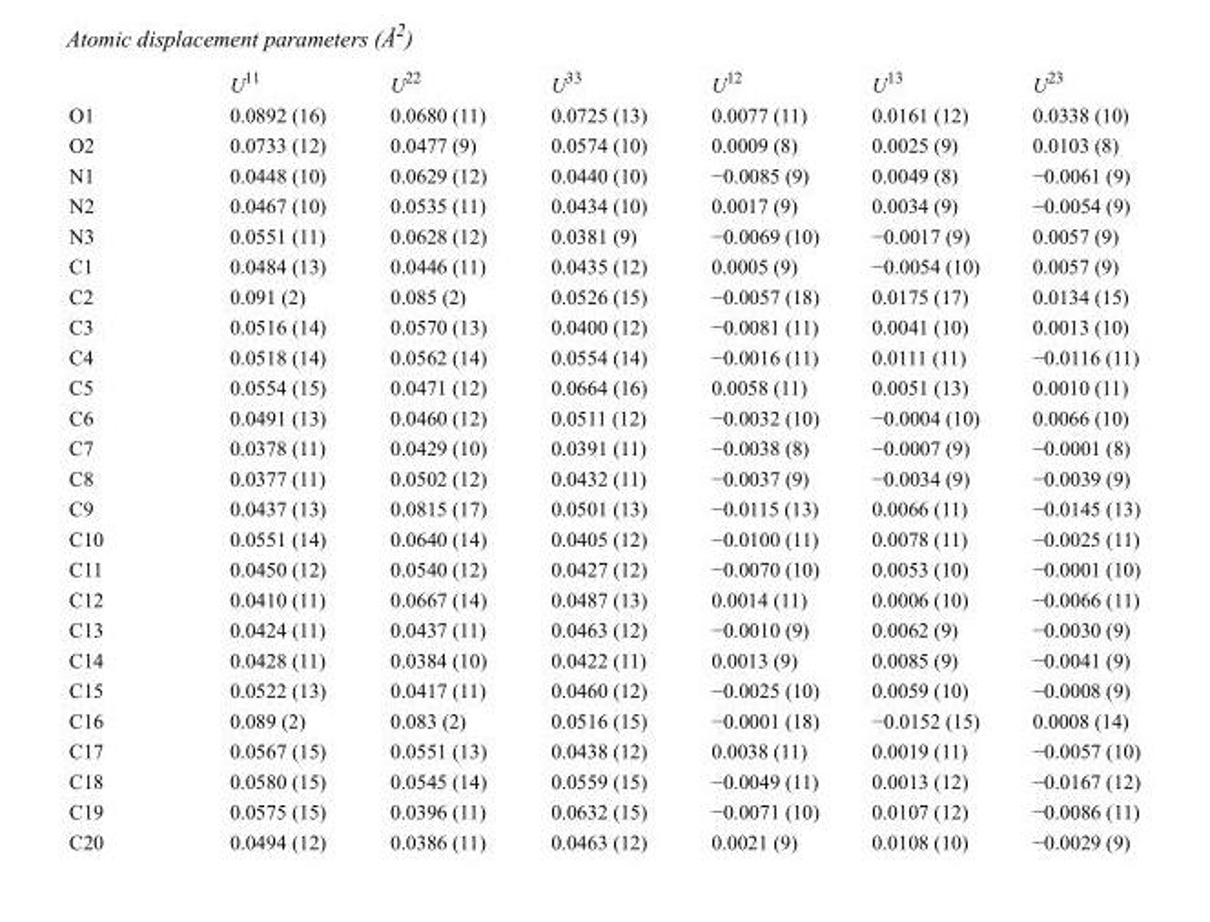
<table><thead><tr><td></td><td>U<sup>11</sup></td><td>U<sup>22</sup></td><td>U<sup>33</sup></td><td>U<sup>12</sup></td><td>U<sup>13</sup></td><td>U<sup>23</sup></td></tr></thead><tbody><tr><td>O1</td><td>0.0892 (16)</td><td>0.0680 (11)</td><td>0.0725 (13)</td><td>0.0077 (11)</td><td>0.0161 (12)</td><td>0.0338 (10)</td></tr><tr><td>O2</td><td>0.0733 (12)</td><td>0.0477 (9)</td><td>0.0574 (10)</td><td>0.0009 (8)</td><td>0.0025 (9)</td><td>0.0103 (8)</td></tr><tr><td>N1</td><td>0.0448 (10)</td><td>0.0629 (12)</td><td>0.0440 (10)</td><td>−0.0085 (9)</td><td>0.0049 (8)</td><td>−0.0061 (9)</td></tr><tr><td>N2</td><td>0.0467 (10)</td><td>0.0535 (11)</td><td>0.0434 (10)</td><td>0.0017 (9)</td><td>0.0034 (9)</td><td>−0.0054 (9)</td></tr><tr><td>N3</td><td>0.0551 (11)</td><td>0.0628 (12)</td><td>0.0381 (9)</td><td>−0.0069 (10)</td><td>−0.0017 (9)</td><td>0.0057 (9)</td></tr><tr><td>C1</td><td>0.0484 (13)</td><td>0.0446 (11)</td><td>0.0435 (12)</td><td>0.0005 (9)</td><td>−0.0054 (10)</td><td>0.0057 (9)</td></tr><tr><td>C2</td><td>0.091 (2)</td><td>0.085 (2)</td><td>0.0526 (15)</td><td>−0.0057 (18)</td><td>0.0175 (17)</td><td>0.0134 (15)</td></tr><tr><td>C3</td><td>0.0516 (14)</td><td>0.0570 (13)</td><td>0.0400 (12)</td><td>−0.0081 (11)</td><td>0.0041 (10)</td><td>0.0013 (10)</td></tr><tr><td>C4</td><td>0.0518 (14)</td><td>0.0562 (14)</td><td>0.0554 (14)</td><td>−0.0016 (11)</td><td>0.0111 (11)</td><td>−0.0116 (11)</td></tr><tr><td>C5</td><td>0.0554 (15)</td><td>0.0471 (12)</td><td>0.0664 (16)</td><td>0.0058 (11)</td><td>0.0051 (13)</td><td>0.0010 (11)</td></tr><tr><td>C6</td><td>0.0491 (13)</td><td>0.0460 (12)</td><td>0.0511 (12)</td><td>−0.0032 (10)</td><td>−0.0004 (10)</td><td>0.0066 (10)</td></tr><tr><td>C7</td><td>0.0378 (11)</td><td>0.0429 (10)</td><td>0.0391 (11)</td><td>−0.0038 (8)</td><td>−0.0007 (9)</td><td>−0.0001 (8)</td></tr><tr><td>C8</td><td>0.0377 (11)</td><td>0.0502 (12)</td><td>0.0432 (11)</td><td>−0.0037 (9)</td><td>−0.0034 (9)</td><td>−0.0039 (9)</td></tr><tr><td>C9</td><td>0.0437 (13)</td><td>0.0815 (17)</td><td>0.0501 (13)</td><td>−0.0115 (13)</td><td>0.0066 (11)</td><td>−0.0145 (13)</td></tr><tr><td>C10</td><td>0.0551 (14)</td><td>0.0640 (14)</td><td>0.0405 (12)</td><td>−0.0100 (11)</td><td>0.0078 (11)</td><td>−0.0025 (11)</td></tr><tr><td>C11</td><td>0.0450 (12)</td><td>0.0540 (12)</td><td>0.0427 (12)</td><td>−0.0070 (10)</td><td>0.0053 (10)</td><td>−0.0001 (10)</td></tr><tr><td>C12</td><td>0.0410 (11)</td><td>0.0667 (14)</td><td>0.0487 (13)</td><td>0.0014 (11)</td><td>0.0006 (10)</td><td>−0.0066 (11)</td></tr><tr><td>C13</td><td>0.0424 (11)</td><td>0.0437 (11)</td><td>0.0463 (12)</td><td>−0.0010 (9)</td><td>0.0062 (9)</td><td>−0.0030 (9)</td></tr><tr><td>C14</td><td>0.0428 (11)</td><td>0.0384 (10)</td><td>0.0422 (11)</td><td>0.0013 (9)</td><td>0.0085 (9)</td><td>−0.0041 (9)</td></tr><tr><td>C15</td><td>0.0522 (13)</td><td>0.0417 (11)</td><td>0.0460 (12)</td><td>−0.0025 (10)</td><td>0.0059 (10)</td><td>−0.0008 (9)</td></tr><tr><td>C16</td><td>0.089 (2)</td><td>0.083 (2)</td><td>0.0516 (15)</td><td>−0.0001 (18)</td><td>−0.0152 (15)</td><td>0.0008 (14)</td></tr><tr><td>C17</td><td>0.0567 (15)</td><td>0.0551 (13)</td><td>0.0438 (12)</td><td>0.0038 (11)</td><td>0.0019 (11)</td><td>−0.0057 (10)</td></tr><tr><td>C18</td><td>0.0580 (15)</td><td>0.0545 (14)</td><td>0.0559 (15)</td><td>−0.0049 (11)</td><td>0.0013 (12)</td><td>−0.0167 (12)</td></tr><tr><td>C19</td><td>0.0575 (15)</td><td>0.0396 (11)</td><td>0.0632 (15)</td><td>−0.0071 (10)</td><td>0.0107 (12)</td><td>−0.0086 (11)</td></tr><tr><td>C20</td><td>0.0494 (12)</td><td>0.0386 (11)</td><td>0.0463 (12)</td><td>0.0021 (9)</td><td>0.0108 (10)</td><td>−0.0029 (9)</td></tr></tbody></table>